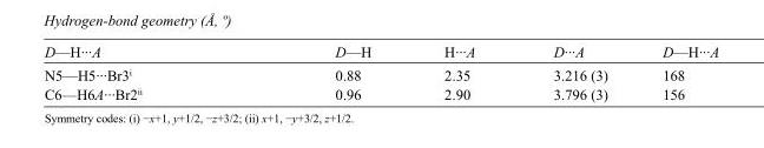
<table><tbody><tr><td>D—H···A</td><td>D—H</td><td>H···A</td><td>D···A</td><td>D—H···A</td></tr><tr><td>N5—H5···Br3<sup>i</sup></td><td>0.88</td><td>2.35</td><td>3.216 (3)</td><td>168</td></tr><tr><td>C6—H6A···Br2<sup>ii</sup></td><td>0.96</td><td>2.90</td><td>3.796 (3)</td><td>156</td></tr></tbody></table>